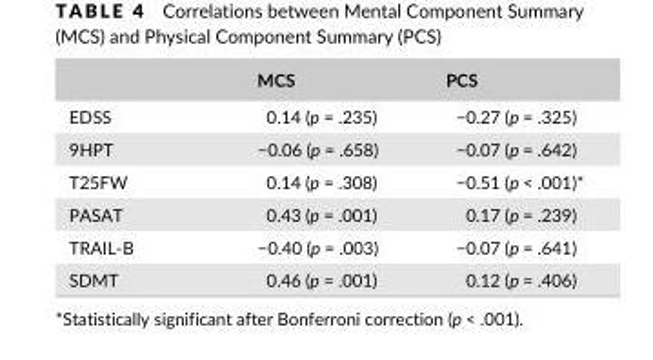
<table><thead><tr><td></td><td>MCS</td><td>PCS</td></tr></thead><tbody><tr><td>EDSS</td><td>0.14 (p = .235)</td><td>−0.27 (p = .325)</td></tr><tr><td>9HPT</td><td>−0.06 (p = .658)</td><td>−0.07 (p = .642)</td></tr><tr><td>T25FW</td><td>0.14 (p = .308)</td><td>−0.51 (p &lt; .001)*</td></tr><tr><td>PASAT</td><td>0.43 (p = .001)</td><td>0.17 (p = .239)</td></tr><tr><td>TRAIL- B</td><td>−0.40 (p = .003)</td><td>−0.07 (p = .641)</td></tr><tr><td>SDMT</td><td>0.46 (p = .001)</td><td>0.12 (p = .406)</td></tr></tbody></table>